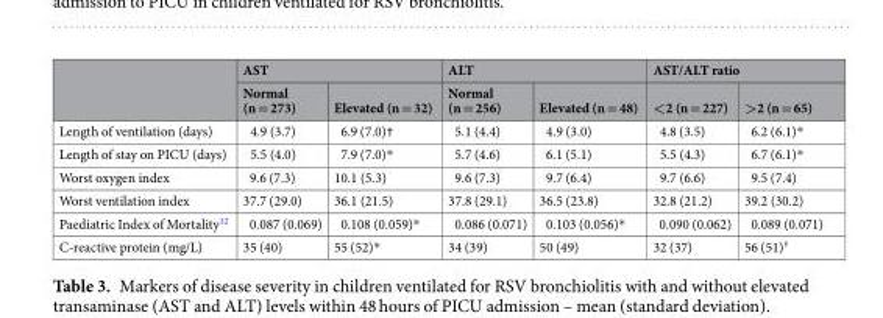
<table><thead><tr><td rowspan="2"></td><td colspan="2">AST</td><td colspan="2">ALT</td><td colspan="2">AST/ALT ratio</td></tr><tr><td>Normal (n = 273)</td><td>Elevated (n = 32)</td><td>Normal (n = 256)</td><td>Elevated (n = 48)</td><td>&lt;2 (n = 227)</td><td>&gt;2 (n = 65)</td></tr></thead><tbody><tr><td>Length of ventilation (days)</td><td>4.9 (3.7)</td><td>6.9 (7.0)†</td><td>5.1 (4.4)</td><td>4.9 (3.0)</td><td>4.8 (3.5)</td><td>6.2 (6.1)*</td></tr><tr><td>Length of stay on PICU (days)</td><td>5.5 (4.0)</td><td>7.9 (7.0)*</td><td>5.7 (4.6)</td><td>6.1 (5.1)</td><td>5.5 (4.3)</td><td>6.7 (6.1)*</td></tr><tr><td>Worst oxygen index</td><td>9.6 (7.3)</td><td>10.1 (5.3)</td><td>9.6 (7.3)</td><td>9.7 (6.4)</td><td>9.7 (6.6)</td><td>9.5 (7.4)</td></tr><tr><td>Worst ventilation index</td><td>37.7 (29.0)</td><td>36.1 (21.5)</td><td>37.8 (29.1)</td><td>36.5 (23.8)</td><td>32.8 (21.2)</td><td>39.2 (30.2)</td></tr><tr><td>Paediatric Index of Mortality<sup>12</sup></td><td>0.087 (0.069)</td><td>0.108 (0.059)*</td><td>0.086 (0.071)</td><td>0.103 (0.056)*</td><td>0.090 (0.062)</td><td>0.089 (0.071)</td></tr><tr><td>C-reactive protein (mg/L)</td><td>35 (40)</td><td>55 (52)*</td><td>34 (39)</td><td>50 (49)</td><td>32 (37)</td><td>56 (51)<sup>†</sup></td></tr></tbody></table>